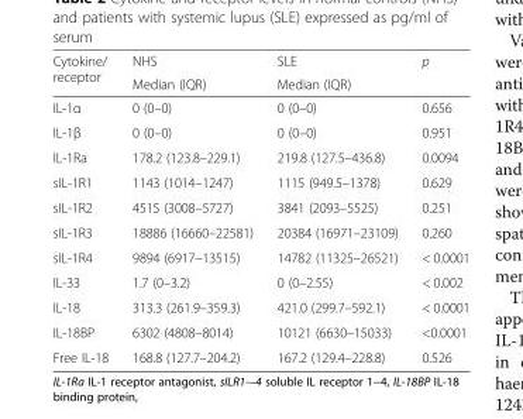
<table><thead><tr><td rowspan="2">Cytokine/ receptor</td><td rowspan="2">NHS Median (IQR)</td><td rowspan="2">SLE Median (IQR)</td><td rowspan="2">p</td></tr><tr></tr></thead><tbody><tr><td>IL-1α</td><td>0 (0–0)</td><td>0 (0–0)</td><td>0.656</td></tr><tr><td>IL-1β</td><td>0 (0–0)</td><td>0 (0–0)</td><td>0.951</td></tr><tr><td>IL-1Ra</td><td>178.2 (123.8–229.1)</td><td>219.8 (127.5–436.8)</td><td>0.0094</td></tr><tr><td>sIL-1R1</td><td>1143 (1014–1247)</td><td>1115 (949.5–1378)</td><td>0.629</td></tr><tr><td>sIL-1R2</td><td>4515 (3008–5727)</td><td>3841 (2093–5525)</td><td>0.251</td></tr><tr><td>sIL-1R3</td><td>18886 (16660–22581)</td><td>20384 (16971–23109)</td><td>0.260</td></tr><tr><td>sIL-1R4</td><td>9894 (6917–13515)</td><td>14782 (11325–26521)</td><td>&lt; 0.0001</td></tr><tr><td>IL-33</td><td>1.7 (0–3.2)</td><td>0 (0–2.55)</td><td>&lt; 0.002</td></tr><tr><td>IL-18</td><td>313.3 (261.9–359.3)</td><td>421.0 (299.7–592.1)</td><td>&lt; 0.0001</td></tr><tr><td>IL-18BP</td><td>6302 (4808–8014)</td><td>10121 (6630–15033)</td><td>&lt;0.0001</td></tr><tr><td>Free IL-18</td><td>168.8 (127.7–204.2)</td><td>167.2 (129.4–228.8)</td><td>0.526</td></tr></tbody></table>